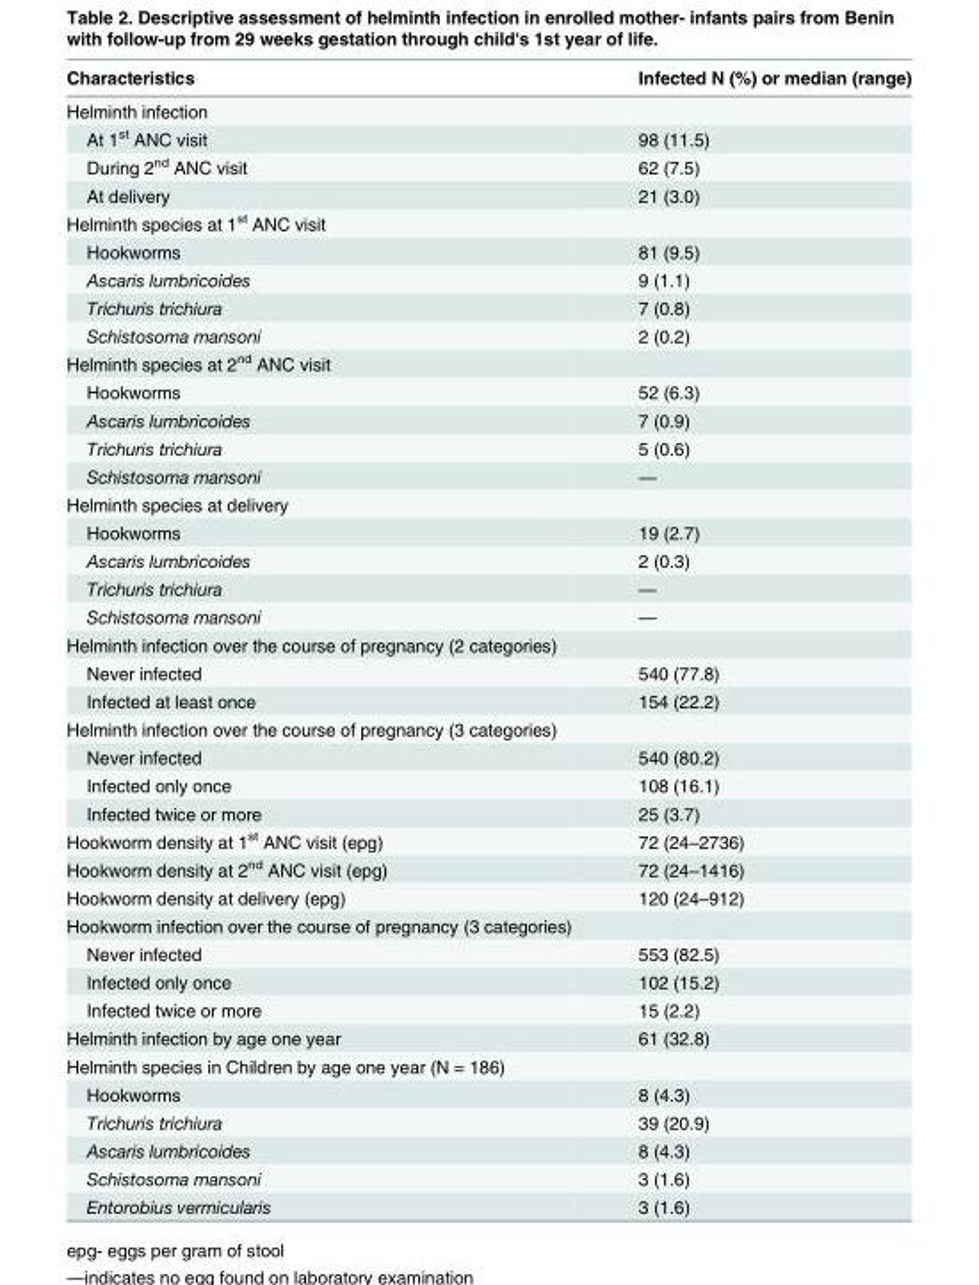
<table><thead><tr><td>Characteristics</td><td>Infected N (%) or median (range)</td></tr></thead><tbody><tr><td colspan="2">Helminth infection</td></tr><tr><td>At 1<sup>st</sup> ANC visit</td><td>98 (11.5)</td></tr><tr><td>During 2<sup>nd</sup> ANC visit</td><td>62 (7.5)</td></tr><tr><td>At delivery</td><td>21 (3.0)</td></tr><tr><td colspan="2">Helminth species at 1<sup>st</sup> ANC visit</td></tr><tr><td>Hookworms</td><td>81 (9.5)</td></tr><tr><td>Ascaris lumbricoides</td><td>9 (1.1)</td></tr><tr><td>Trichuris trichiura</td><td>7 (0.8)</td></tr><tr><td>Schistosoma mansoni</td><td>2 (0.2)</td></tr><tr><td colspan="2">Helminth species at 2<sup>nd</sup> ANC visit</td></tr><tr><td>Hookworms</td><td>52 (6.3)</td></tr><tr><td>Ascaris lumbricoides</td><td>7 (0.9)</td></tr><tr><td>Trichuris trichiura</td><td>5 (0.6)</td></tr><tr><td>Schistosoma mansoni</td><td>—</td></tr><tr><td colspan="2">Helminth species at delivery</td></tr><tr><td>Hookworms</td><td>19 (2.7)</td></tr><tr><td>Ascaris lumbricoides</td><td>2 (0.3)</td></tr><tr><td>Trichuris trichiura</td><td>—</td></tr><tr><td>Schistosoma mansoni</td><td>—</td></tr><tr><td colspan="2">Helminth infection over the course of pregnancy (2 categories)</td></tr><tr><td>Never infected</td><td>540 (77.8)</td></tr><tr><td>Infected at least once</td><td>154 (22.2)</td></tr><tr><td colspan="2">Helminth infection over the course of pregnancy (3 categories)</td></tr><tr><td>Never infected</td><td>540 (80.2)</td></tr><tr><td>Infected only once</td><td>108 (16.1)</td></tr><tr><td>Infected twice or more</td><td>25 (3.7)</td></tr><tr><td>Hookworm density at 1<sup>st</sup> ANC visit (epg)</td><td>72 (24–2736)</td></tr><tr><td>Hookworm density at 2<sup>nd</sup> ANC visit (epg)</td><td>72 (24–1416)</td></tr><tr><td>Hookworm density at delivery (epg)</td><td>120 (24–912)</td></tr><tr><td colspan="2">Hookworm infection over the course of pregnancy (3 categories)</td></tr><tr><td>Never infected</td><td>553 (82.5)</td></tr><tr><td>Infected only once</td><td>102 (15.2)</td></tr><tr><td>Infected twice or more</td><td>15 (2.2)</td></tr><tr><td>Helminth infection by age one year</td><td>61 (32.8)</td></tr><tr><td colspan="2">Helminth species in Children by age one year (N = 186)</td></tr><tr><td>Hookworms</td><td>8 (4.3)</td></tr><tr><td>Trichuris trichiura</td><td>39 (20.9)</td></tr><tr><td>Ascaris lumbricoides</td><td>8 (4.3)</td></tr><tr><td>Schistosoma mansoni</td><td>3 (1.6)</td></tr><tr><td>Entorobius vermicularis</td><td>3 (1.6)</td></tr></tbody></table>